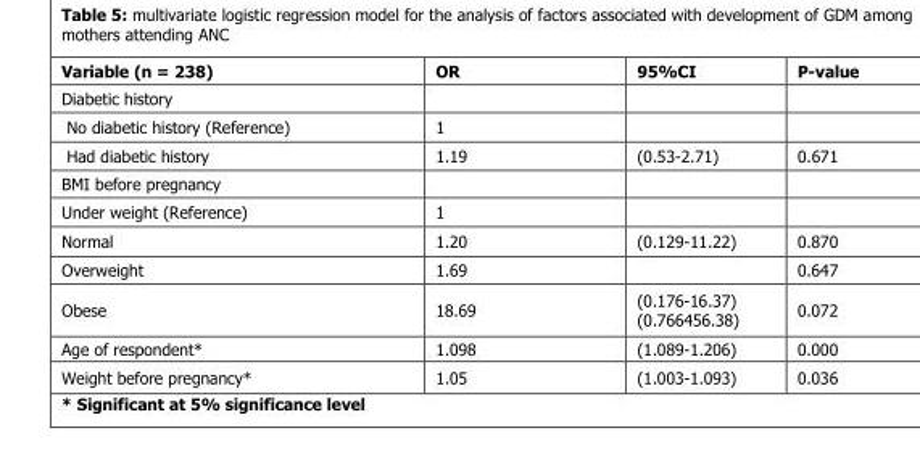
<table><thead><tr><td>Variable (n = 238)</td><td>OR</td><td>95%CI</td><td>P-value</td></tr></thead><tbody><tr><td colspan="4">Diabetic history</td></tr><tr><td>No diabetic history (Reference)</td><td>1</td><td></td><td></td></tr><tr><td>Had diabetic history</td><td>1.19</td><td>(0.53-2.71)</td><td>0.671</td></tr><tr><td colspan="4">BMI before pregnancy</td></tr><tr><td>Under weight (Reference)</td><td>1</td><td></td><td></td></tr><tr><td>Normal</td><td>1.20</td><td>(0.129-11.22)</td><td>0.870</td></tr><tr><td>Overweight</td><td>1.69</td><td></td><td>0.647</td></tr><tr><td>Obese</td><td>18.69</td><td>(0.176-16.37) (0.766456.38)</td><td>0.072</td></tr><tr><td>Age of respondent*</td><td>1.098</td><td>(1.089-1.206)</td><td>0.000</td></tr><tr><td>Weight before pregnancy*</td><td>1.05</td><td>(1.003-1.093)</td><td>0.036</td></tr></tbody></table>